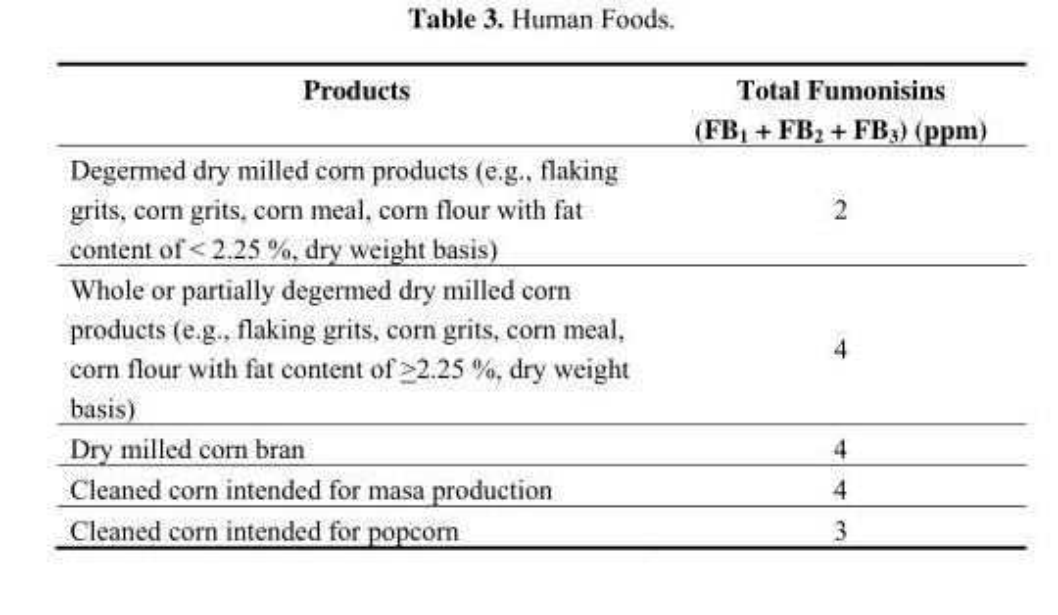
<table><thead><tr><td>Products</td><td>Total Fumonisins (FB<sub>1</sub> + FB<sub>2</sub> + FB<sub>3</sub>) (ppm)</td></tr></thead><tbody><tr><td>Degermed dry milled corn products (e.g., flaking grits, corn grits, corn meal, corn flour with fat content of &lt; 2.25 %, dry weight basis)</td><td>2</td></tr><tr><td>Whole or partially degermed dry milled corn products (e.g., flaking grits, corn grits, corn meal, corn flour with fat content of &gt;2.25 %, dry weight basis)</td><td>4</td></tr><tr><td>Dry milled corn bran</td><td>4</td></tr><tr><td>Cleaned corn intended for masa production</td><td>4</td></tr><tr><td>Cleaned corn intended for popcorn</td><td>3</td></tr></tbody></table>